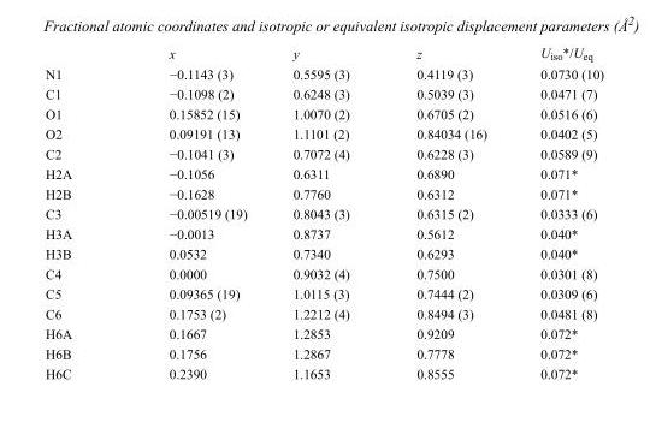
<table><thead><tr><td></td><td>x</td><td>y</td><td>z</td><td>U<sub>iso</sub>*/U<sub>eq</sub></td></tr></thead><tbody><tr><td>N1</td><td>−0.1143 (3)</td><td>0.5595 (3)</td><td>0.4119 (3)</td><td>0.0730 (10)</td></tr><tr><td>C1</td><td>−0.1098 (2)</td><td>0.6248 (3)</td><td>0.5039 (3)</td><td>0.0471 (7)</td></tr><tr><td>O1</td><td>0.15852 (15)</td><td>1.0070 (2)</td><td>0.6705 (2)</td><td>0.0516 (6)</td></tr><tr><td>O2</td><td>0.09191 (13)</td><td>1.1101 (2)</td><td>0.84034 (16)</td><td>0.0402 (5)</td></tr><tr><td>C2</td><td>−0.1041 (3)</td><td>0.7072 (4)</td><td>0.6228 (3)</td><td>0.0589 (9)</td></tr><tr><td>H2A</td><td>−0.1056</td><td>0.6311</td><td>0.6890</td><td>0.071*</td></tr><tr><td>H2B</td><td>−0.1628</td><td>0.7760</td><td>0.6312</td><td>0.071*</td></tr><tr><td>C3</td><td>−0.00519 (19)</td><td>0.8043 (3)</td><td>0.6315 (2)</td><td>0.0333 (6)</td></tr><tr><td>H3A</td><td>−0.0013</td><td>0.8737</td><td>0.5612</td><td>0.040*</td></tr><tr><td>H3B</td><td>0.0532</td><td>0.7340</td><td>0.6293</td><td>0.040*</td></tr><tr><td>C4</td><td>0.0000</td><td>0.9032 (4)</td><td>0.7500</td><td>0.0301 (8)</td></tr><tr><td>C5</td><td>0.09365 (19)</td><td>1.0115 (3)</td><td>0.7444 (2)</td><td>0.0309 (6)</td></tr><tr><td>C6</td><td>0.1753 (2)</td><td>1.2212 (4)</td><td>0.8494 (3)</td><td>0.0481 (8)</td></tr><tr><td>H6A</td><td>0.1667</td><td>1.2853</td><td>0.9209</td><td>0.072*</td></tr><tr><td>H6B</td><td>0.1756</td><td>1.2867</td><td>0.7778</td><td>0.072*</td></tr><tr><td>H6C</td><td>0.2390</td><td>1.1653</td><td>0.8555</td><td>0.072*</td></tr></tbody></table>